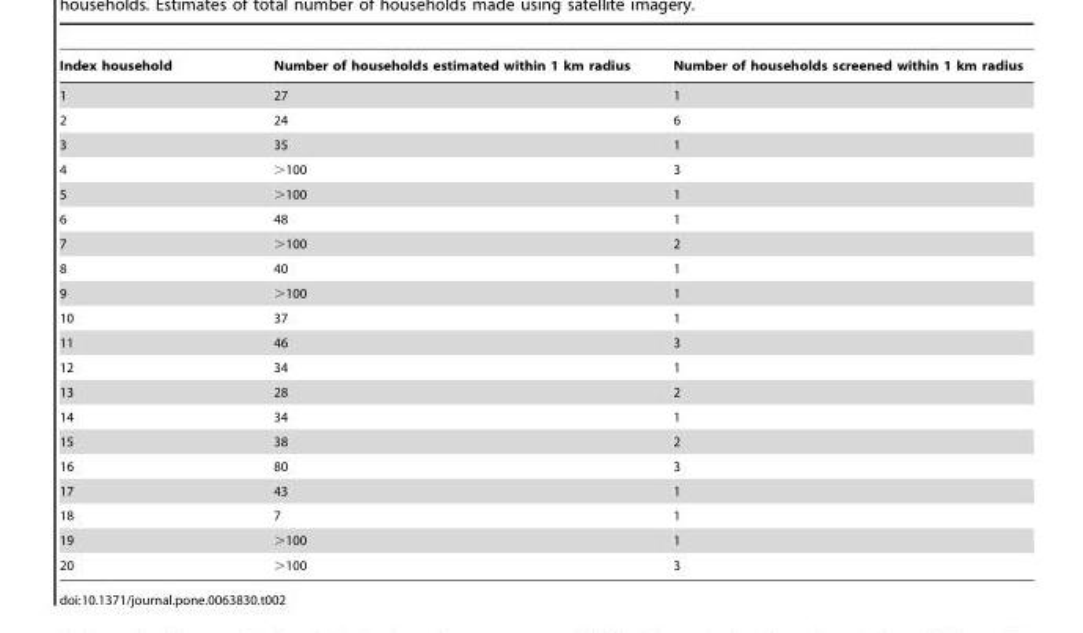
<table><thead><tr><td>Index household</td><td>Number of households estimated within 1 km radius</td><td>Number of households screened within 1 km radius</td></tr></thead><tbody><tr><td>1</td><td>27</td><td>1</td></tr><tr><td>2</td><td>24</td><td>6</td></tr><tr><td>3</td><td>35</td><td>1</td></tr><tr><td>4</td><td>&gt;100</td><td>3</td></tr><tr><td>5</td><td>&gt;100</td><td>1</td></tr><tr><td>6</td><td>48</td><td>1</td></tr><tr><td>7</td><td>&gt;100</td><td>2</td></tr><tr><td>8</td><td>40</td><td>1</td></tr><tr><td>9</td><td>&gt;100</td><td>1</td></tr><tr><td>10</td><td>37</td><td>1</td></tr><tr><td>11</td><td>46</td><td>3</td></tr><tr><td>12</td><td>34</td><td>1</td></tr><tr><td>13</td><td>28</td><td>2</td></tr><tr><td>14</td><td>34</td><td>1</td></tr><tr><td>15</td><td>38</td><td>2</td></tr><tr><td>16</td><td>80</td><td>3</td></tr><tr><td>17</td><td>43</td><td>1</td></tr><tr><td>18</td><td>7</td><td>1</td></tr><tr><td>19</td><td>&gt;100</td><td>1</td></tr><tr><td>20</td><td>&gt;100</td><td>3</td></tr></tbody></table>